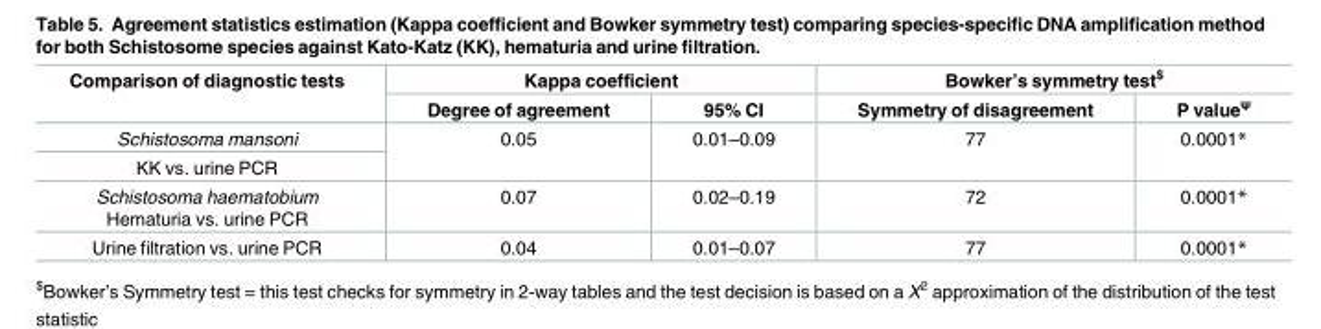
<table><thead><tr><td rowspan="2">Comparison of diagnostic tests</td><td colspan="2">Kappa coefficient</td><td colspan="2">Bowker’s symmetry test<sup>$</sup></td></tr><tr><td>Degree of agreement</td><td>95% CI</td><td>Symmetry of disagreement</td><td>P value<sup>ψ</sup></td></tr></thead><tbody><tr><td>Schistosoma mansoni</td><td rowspan="2">0.05</td><td rowspan="2">0.01–0.09</td><td rowspan="2">77</td><td rowspan="2">0.0001*</td></tr><tr><td>KK vs. urine PCR</td></tr><tr><td>Schistosoma haematobium Hematuria vs. urine PCR</td><td>0.07</td><td>0.02–0.19</td><td>72</td><td>0.0001*</td></tr><tr><td>Urine filtration vs. urine PCR</td><td>0.04</td><td>0.01–0.07</td><td>77</td><td>0.0001*</td></tr></tbody></table>